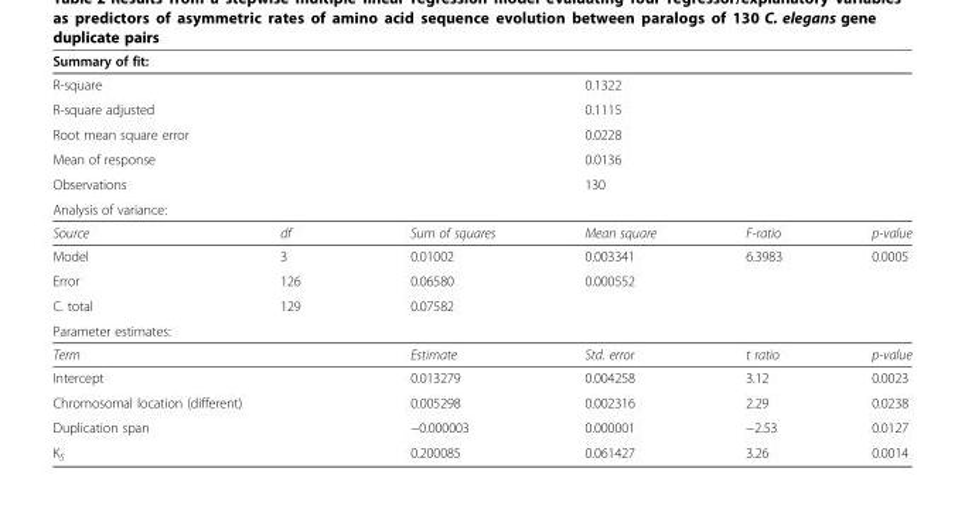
<table><thead><tr><td colspan="3">Summary of fit:</td><td></td><td></td><td></td></tr></thead><tbody><tr><td colspan="3">R-square</td><td colspan="3">0.1322</td></tr><tr><td colspan="3">R-square adjusted</td><td colspan="3">0.1115</td></tr><tr><td colspan="3">Root mean square error</td><td colspan="3">0.0228</td></tr><tr><td colspan="3">Mean of response</td><td colspan="3">0.0136</td></tr><tr><td colspan="3">Observations</td><td colspan="3">130</td></tr><tr><td colspan="6">Analysis of variance:</td></tr><tr><td>Source</td><td>df</td><td>Sum of squares</td><td>Mean square</td><td>F-ratio</td><td>p-value</td></tr><tr><td>Model</td><td>3</td><td>0.01002</td><td>0.003341</td><td>6.3983</td><td>0.0005</td></tr><tr><td>Error</td><td>126</td><td>0.06580</td><td>0.000552</td><td></td><td></td></tr><tr><td>C. total</td><td>129</td><td>0.07582</td><td></td><td></td><td></td></tr><tr><td colspan="6">Parameter estimates:</td></tr><tr><td>Term</td><td></td><td>Estimate</td><td>Std. error</td><td>t ratio</td><td>p-value</td></tr><tr><td colspan="2">Intercept</td><td>0.013279</td><td>0.004258</td><td>3.12</td><td>0.0023</td></tr><tr><td colspan="2">Chromosomal location (different)</td><td>0.005298</td><td>0.002316</td><td>2.29</td><td>0.0238</td></tr><tr><td colspan="2">Duplication span</td><td>−0.000003</td><td>0.000001</td><td>−2.53</td><td>0.0127</td></tr><tr><td colspan="2">K<sub>S</sub></td><td>0.200085</td><td>0.061427</td><td>3.26</td><td>0.0014</td></tr></tbody></table>